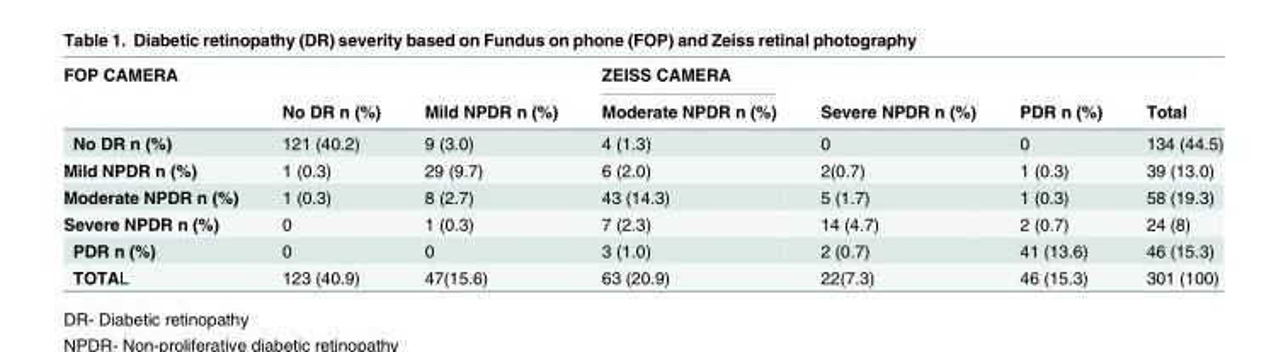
<table><thead><tr><td rowspan="2">FOP CAMERA</td><td rowspan="2">No DR n (%)</td><td rowspan="2">Mild NPDR n (%)</td><td rowspan="2">ZEISS CAMERA Moderate NPDR n (%)</td><td rowspan="2">Severe NPDR n (%)</td><td rowspan="2">PDR n (%)</td><td rowspan="2">Total</td></tr><tr></tr></thead><tbody><tr><td>No DR n (%)</td><td>121 (40.2)</td><td>9 (3.0)</td><td>4 (1.3)</td><td>0</td><td>0</td><td>134 (44.5)</td></tr><tr><td>Mild NPDR n (%)</td><td>1 (0.3)</td><td>29 (9.7)</td><td>6 (2.0)</td><td>2(0.7)</td><td>1 (0.3)</td><td>39 (13.0)</td></tr><tr><td>Moderate NPDR n (%)</td><td>1 (0.3)</td><td>8 (2.7)</td><td>43 (14.3)</td><td>5 (1.7)</td><td>1 (0.3)</td><td>58 (19.3)</td></tr><tr><td>Severe NPDR n (%)</td><td>0</td><td>1 (0.3)</td><td>7 (2.3)</td><td>14 (4.7)</td><td>2 (0.7)</td><td>24 (8)</td></tr><tr><td>PDR n (%)</td><td>0</td><td>0</td><td>3 (1.0)</td><td>2 (0.7)</td><td>41 (13.6)</td><td>46 (15.3)</td></tr><tr><td>TOTAL</td><td>123 (40.9)</td><td>47(15.6)</td><td>63 (20.9)</td><td>22(7.3)</td><td>46 (15.3)</td><td>301 (100)</td></tr></tbody></table>